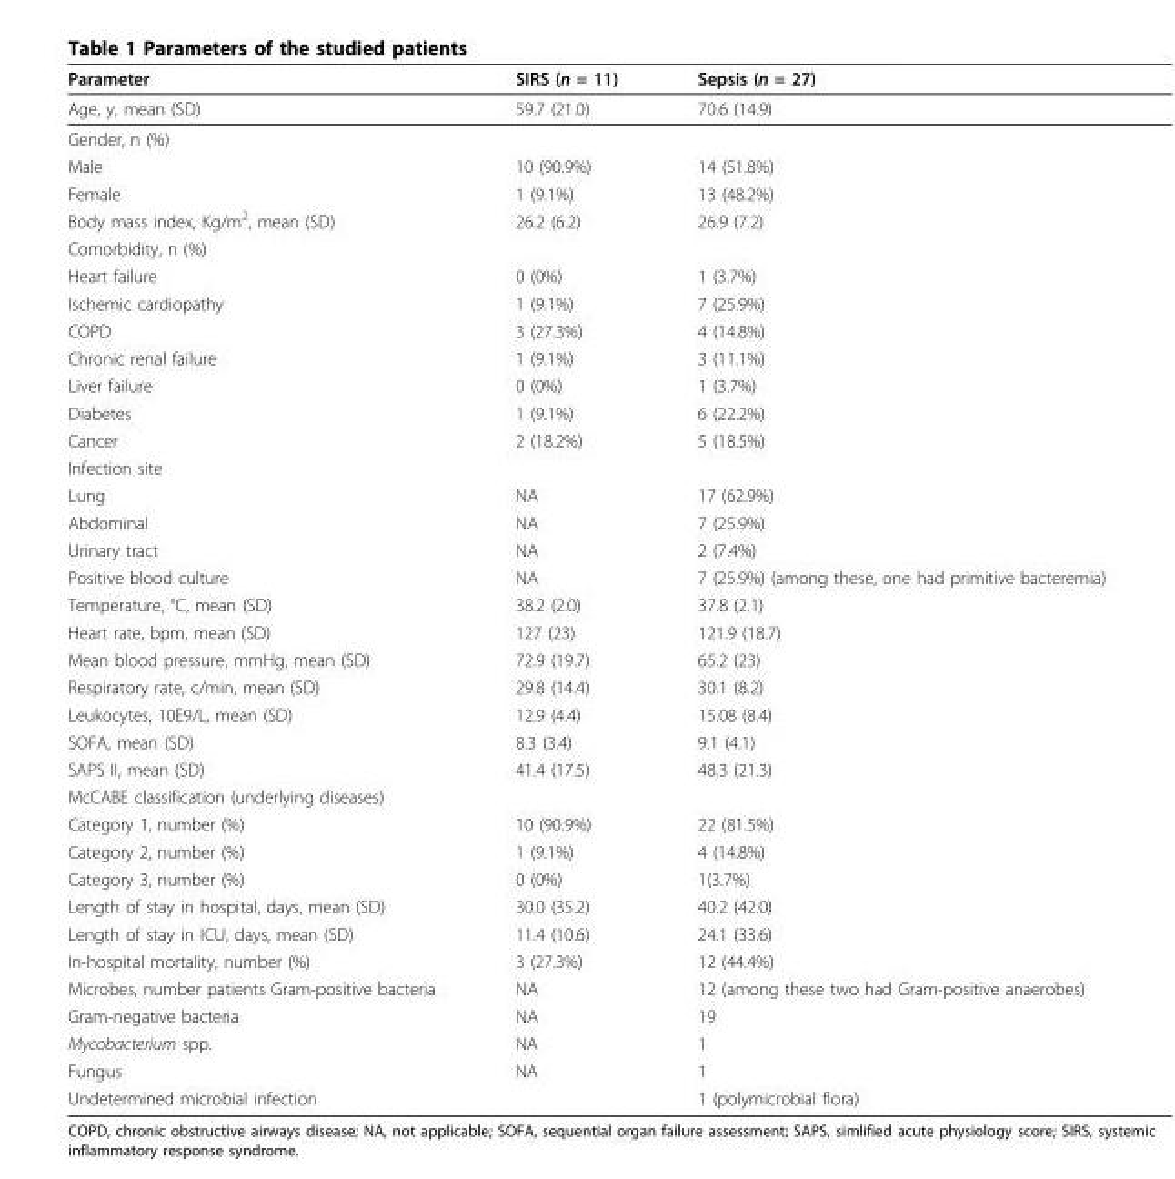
<table><thead><tr><td>Parameter</td><td>SIRS (n = 11)</td><td>Sepsis (n = 27)</td></tr></thead><tbody><tr><td>Age, y, mean (SD)</td><td>59.7 (21.0)</td><td>70.6 (14.9)</td></tr><tr><td colspan="3">Gender, n (%)</td></tr><tr><td>Male</td><td>10 (90.9%)</td><td>14 (51.8%)</td></tr><tr><td>Female</td><td>1 (9.1%)</td><td>13 (48.2%)</td></tr><tr><td>Body mass index, Kg/m<sup>2</sup>, mean (SD)</td><td>26.2 (6.2)</td><td>26.9 (7.2)</td></tr><tr><td colspan="3">Comorbidity, n (%)</td></tr><tr><td>Heart failure</td><td>0 (0%)</td><td>1 (3.7%)</td></tr><tr><td>Ischemic cardiopathy</td><td>1 (9.1%)</td><td>7 (25.9%)</td></tr><tr><td>COPD</td><td>3 (27.3%)</td><td>4 (14.8%)</td></tr><tr><td>Chronic renal failure</td><td>1 (9.1%)</td><td>3 (11.1%)</td></tr><tr><td>Liver failure</td><td>0 (0%)</td><td>1 (3.7%)</td></tr><tr><td>Diabetes</td><td>1 (9.1%)</td><td>6 (22.2%)</td></tr><tr><td>Cancer</td><td>2 (18.2%)</td><td>5 (18.5%)</td></tr><tr><td colspan="3">Infection site</td></tr><tr><td>Lung</td><td>NA</td><td>17 (62.9%)</td></tr><tr><td>Abdominal</td><td>NA</td><td>7 (25.9%)</td></tr><tr><td>Urinary tract</td><td>NA</td><td>2 (7.4%)</td></tr><tr><td>Positive blood culture</td><td>NA</td><td>7 (25.9%) (among these, one had primitive bacteremia)</td></tr><tr><td>Temperature, °C, mean (SD)</td><td>38.2 (2.0)</td><td>37.8 (2.1)</td></tr><tr><td>Heart rate, bpm, mean (SD)</td><td>127 (23)</td><td>121.9 (18.7)</td></tr><tr><td>Mean blood pressure, mmHg, mean (SD)</td><td>72.9 (19.7)</td><td>65.2 (23)</td></tr><tr><td>Respiratory rate, c/min, mean (SD)</td><td>29.8 (14.4)</td><td>30.1 (8.2)</td></tr><tr><td>Leukocytes, 10E9/L, mean (SD)</td><td>12.9 (4.4)</td><td>15.08 (8.4)</td></tr><tr><td>SOFA, mean (SD)</td><td>8.3 (3.4)</td><td>9.1 (4.1)</td></tr><tr><td>SAPS II, mean (SD)</td><td>41.4 (17.5)</td><td>48.3 (21.3)</td></tr><tr><td colspan="3">McCABE classification (underlying diseases)</td></tr><tr><td>Category 1, number (%)</td><td>10 (90.9%)</td><td>22 (81.5%)</td></tr><tr><td>Category 2, number (%)</td><td>1 (9.1%)</td><td>4 (14.8%)</td></tr><tr><td>Category 3, number (%)</td><td>0 (0%)</td><td>1(3.7%)</td></tr><tr><td>Length of stay in hospital, days, mean (SD)</td><td>30.0 (35.2)</td><td>40.2 (42.0)</td></tr><tr><td>Length of stay in ICU, days, mean (SD)</td><td>11.4 (10.6)</td><td>24.1 (33.6)</td></tr><tr><td>In-hospital mortality, number (%)</td><td>3 (27.3%)</td><td>12 (44.4%)</td></tr><tr><td>Microbes, number patients Gram-positive bacteria</td><td>NA</td><td>12 (among these two had Gram-positive anaerobes)</td></tr><tr><td>Gram-negative bacteria</td><td>NA</td><td>19</td></tr><tr><td>Mycobacterium spp.</td><td>NA</td><td>1</td></tr><tr><td>Fungus</td><td>NA</td><td>1</td></tr><tr><td>Undetermined microbial infection</td><td></td><td>1 (polymicrobial flora)</td></tr></tbody></table>